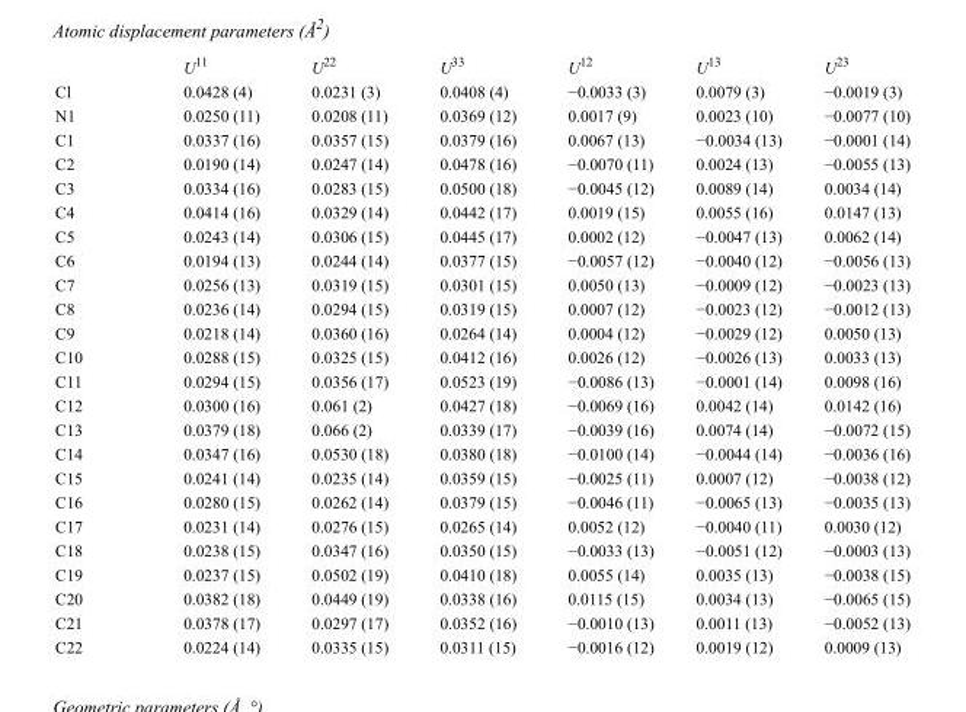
<table><thead><tr><td></td><td>U<sup>11</sup></td><td>U<sup>22</sup></td><td>U<sup>33</sup></td><td>U<sup>12</sup></td><td>U<sup>13</sup></td><td>U<sup>23</sup></td></tr></thead><tbody><tr><td>Cl</td><td>0.0428 (4)</td><td>0.0231 (3)</td><td>0.0408 (4)</td><td>−0.0033 (3)</td><td>0.0079 (3)</td><td>−0.0019 (3)</td></tr><tr><td>N1</td><td>0.0250 (11)</td><td>0.0208 (11)</td><td>0.0369 (12)</td><td>0.0017 (9)</td><td>0.0023 (10)</td><td>−0.0077 (10)</td></tr><tr><td>C1</td><td>0.0337 (16)</td><td>0.0357 (15)</td><td>0.0379 (16)</td><td>0.0067 (13)</td><td>−0.0034 (13)</td><td>−0.0001 (14)</td></tr><tr><td>C2</td><td>0.0190 (14)</td><td>0.0247 (14)</td><td>0.0478 (16)</td><td>−0.0070 (11)</td><td>0.0024 (13)</td><td>−0.0055 (13)</td></tr><tr><td>C3</td><td>0.0334 (16)</td><td>0.0283 (15)</td><td>0.0500 (18)</td><td>−0.0045 (12)</td><td>0.0089 (14)</td><td>0.0034 (14)</td></tr><tr><td>C4</td><td>0.0414 (16)</td><td>0.0329 (14)</td><td>0.0442 (17)</td><td>0.0019 (15)</td><td>0.0055 (16)</td><td>0.0147 (13)</td></tr><tr><td>C5</td><td>0.0243 (14)</td><td>0.0306 (15)</td><td>0.0445 (17)</td><td>0.0002 (12)</td><td>−0.0047 (13)</td><td>0.0062 (14)</td></tr><tr><td>C6</td><td>0.0194 (13)</td><td>0.0244 (14)</td><td>0.0377 (15)</td><td>−0.0057 (12)</td><td>−0.0040 (12)</td><td>−0.0056 (13)</td></tr><tr><td>C7</td><td>0.0256 (13)</td><td>0.0319 (15)</td><td>0.0301 (15)</td><td>0.0050 (13)</td><td>−0.0009 (12)</td><td>−0.0023 (13)</td></tr><tr><td>C8</td><td>0.0236 (14)</td><td>0.0294 (15)</td><td>0.0319 (15)</td><td>0.0007 (12)</td><td>−0.0023 (12)</td><td>−0.0012 (13)</td></tr><tr><td>C9</td><td>0.0218 (14)</td><td>0.0360 (16)</td><td>0.0264 (14)</td><td>0.0004 (12)</td><td>−0.0029 (12)</td><td>0.0050 (13)</td></tr><tr><td>C10</td><td>0.0288 (15)</td><td>0.0325 (15)</td><td>0.0412 (16)</td><td>0.0026 (12)</td><td>−0.0026 (13)</td><td>0.0033 (13)</td></tr><tr><td>C11</td><td>0.0294 (15)</td><td>0.0356 (17)</td><td>0.0523 (19)</td><td>−0.0086 (13)</td><td>−0.0001 (14)</td><td>0.0098 (16)</td></tr><tr><td>C12</td><td>0.0300 (16)</td><td>0.061 (2)</td><td>0.0427 (18)</td><td>−0.0069 (16)</td><td>0.0042 (14)</td><td>0.0142 (16)</td></tr><tr><td>C13</td><td>0.0379 (18)</td><td>0.066 (2)</td><td>0.0339 (17)</td><td>−0.0039 (16)</td><td>0.0074 (14)</td><td>−0.0072 (15)</td></tr><tr><td>C14</td><td>0.0347 (16)</td><td>0.0530 (18)</td><td>0.0380 (18)</td><td>−0.0100 (14)</td><td>−0.0044 (14)</td><td>−0.0036 (16)</td></tr><tr><td>C15</td><td>0.0241 (14)</td><td>0.0235 (14)</td><td>0.0359 (15)</td><td>−0.0025 (11)</td><td>0.0007 (12)</td><td>−0.0038 (12)</td></tr><tr><td>C16</td><td>0.0280 (15)</td><td>0.0262 (14)</td><td>0.0379 (15)</td><td>−0.0046 (11)</td><td>−0.0065 (13)</td><td>−0.0035 (13)</td></tr><tr><td>C17</td><td>0.0231 (14)</td><td>0.0276 (15)</td><td>0.0265 (14)</td><td>0.0052 (12)</td><td>−0.0040 (11)</td><td>0.0030 (12)</td></tr><tr><td>C18</td><td>0.0238 (15)</td><td>0.0347 (16)</td><td>0.0350 (15)</td><td>−0.0033 (13)</td><td>−0.0051 (12)</td><td>−0.0003 (13)</td></tr><tr><td>C19</td><td>0.0237 (15)</td><td>0.0502 (19)</td><td>0.0410 (18)</td><td>0.0055 (14)</td><td>0.0035 (13)</td><td>−0.0038 (15)</td></tr><tr><td>C20</td><td>0.0382 (18)</td><td>0.0449 (19)</td><td>0.0338 (16)</td><td>0.0115 (15)</td><td>0.0034 (13)</td><td>−0.0065 (15)</td></tr><tr><td>C21</td><td>0.0378 (17)</td><td>0.0297 (17)</td><td>0.0352 (16)</td><td>−0.0010 (13)</td><td>0.0011 (13)</td><td>−0.0052 (13)</td></tr><tr><td>C22</td><td>0.0224 (14)</td><td>0.0335 (15)</td><td>0.0311 (15)</td><td>−0.0016 (12)</td><td>0.0019 (12)</td><td>0.0009 (13)</td></tr></tbody></table>